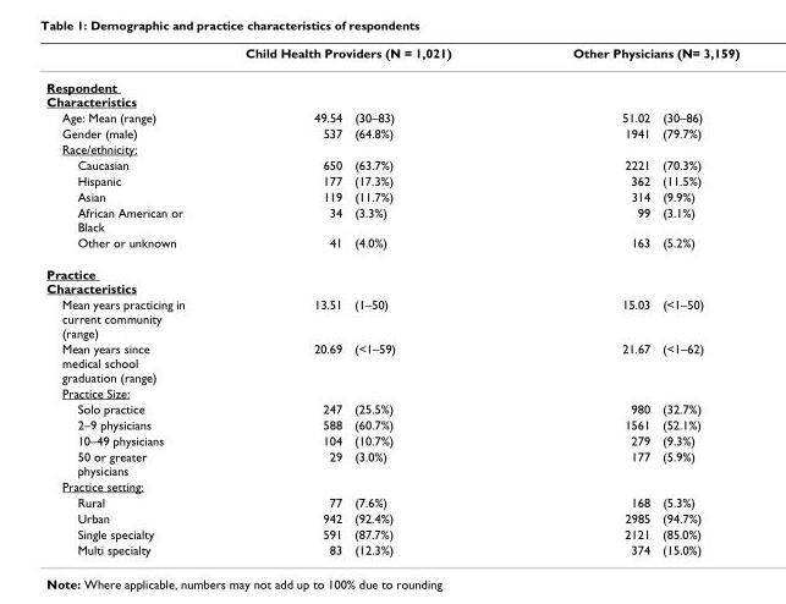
<table><thead><tr><td rowspan="2">Respondent Characteristics</td><td colspan="2">Child Health Providers (N = 1,021)</td><td colspan="2">Other Physicians (N= 3,159)</td></tr><tr><td></td><td></td><td></td><td></td></tr></thead><tbody><tr><td>Age: Mean (range)</td><td>49.54</td><td>(30–83)</td><td>51.02</td><td>(30–86)</td></tr><tr><td>Gender (male)</td><td>537</td><td>(64.8%)</td><td>1941</td><td>(79.7%)</td></tr><tr><td colspan="5">Race/ethnicity:</td></tr><tr><td>Caucasian</td><td>650</td><td>(63.7%)</td><td>2221</td><td>(70.3%)</td></tr><tr><td>Hispanic</td><td>177</td><td>(17.3%)</td><td>362</td><td>(11.5%)</td></tr><tr><td>Asian</td><td>119</td><td>(11.7%)</td><td>314</td><td>(9.9%)</td></tr><tr><td>African American or Black</td><td>34</td><td>(3.3%)</td><td>99</td><td>(3.1%)</td></tr><tr><td>Other or unknown</td><td>41</td><td>(4.0%)</td><td>163</td><td>(5.2%)</td></tr><tr><td colspan="5">Practice Characteristics</td></tr><tr><td>Mean years practicing in current community (range)</td><td>13.51</td><td>(1–50)</td><td>15.03</td><td>(&lt;1–50)</td></tr><tr><td>Mean years since medical school graduation (range)</td><td>20.69</td><td>(&lt;1–59)</td><td>21.67</td><td>(&lt;1–62)</td></tr><tr><td colspan="5">Practice Size:</td></tr><tr><td>Solo practice</td><td>247</td><td>(25.5%)</td><td>980</td><td>(32.7%)</td></tr><tr><td>2–9 physicians</td><td>588</td><td>(60.7%)</td><td>1561</td><td>(52.1%)</td></tr><tr><td>10–49 physicians</td><td>104</td><td>(10.7%)</td><td>279</td><td>(9.3%)</td></tr><tr><td>50 or greater physicians</td><td>29</td><td>(3.0%)</td><td>177</td><td>(5.9%)</td></tr><tr><td colspan="5">Practice setting:</td></tr><tr><td>Rural</td><td>77</td><td>(7.6%)</td><td>168</td><td>(5.3%)</td></tr><tr><td>Urban</td><td>942</td><td>(92.4%)</td><td>2985</td><td>(94.7%)</td></tr><tr><td>Single specialty</td><td>591</td><td>(87.7%)</td><td>2121</td><td>(85.0%)</td></tr><tr><td>Multi specialty</td><td>83</td><td>(12.3%)</td><td>374</td><td>(15.0%)</td></tr></tbody></table>